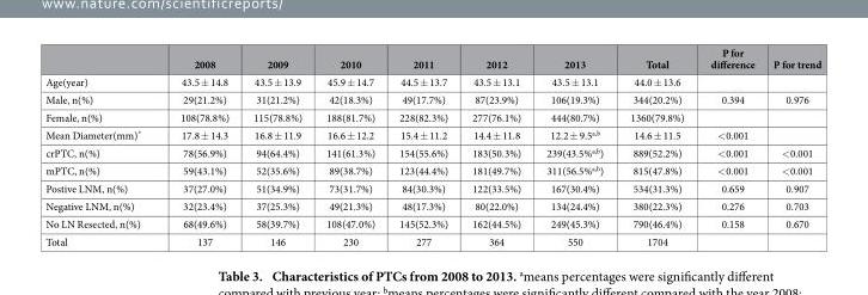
<table><thead><tr><td></td><td>2008</td><td>2009</td><td>2010</td><td>2011</td><td>2012</td><td>2013</td><td>Total</td><td>P for difference</td><td>P for trend</td></tr></thead><tbody><tr><td>Age(year)</td><td>43.5 ± 14.8</td><td>43.5 ± 13.9</td><td>45.9 ± 14.7</td><td>44.5 ± 13.7</td><td>43.5 ± 13.1</td><td>43.5 ± 13.1</td><td>44.0 ± 13.6</td><td></td><td></td></tr><tr><td>Male, n(%)</td><td>29(21.2%)</td><td>31(21.2%)</td><td>42(18.3%)</td><td>49(17.7%)</td><td>87(23.9%)</td><td>106(19.3%)</td><td>344(20.2%)</td><td>0.394</td><td>0.976</td></tr><tr><td>Female, n(%)</td><td>108(78.8%)</td><td>115(78.8%)</td><td>188(81.7%)</td><td>228(82.3%)</td><td>277(76.1%)</td><td>444(80.7%)</td><td>1360(79.8%)</td><td></td><td></td></tr><tr><td>Mean Diameter(mm)*</td><td>17.8 ± 14.3</td><td>16.8 ± 11.9</td><td>16.6 ± 12.2</td><td>15.4 ± 11.2</td><td>14.4 ± 11.8</td><td>12.2 ± 9.5<sup>a,b</sup></td><td>14.6 ± 11.5</td><td>&lt; 0.001</td><td></td></tr><tr><td>crPTC, n(%)</td><td>78(56.9%)</td><td>94(64.4%)</td><td>141(61.3%)</td><td>154(55.6%)</td><td>183(50.3%)</td><td>239(43.5%<sup>a,b</sup>)</td><td>889(52.2%)</td><td>&lt; 0.001</td><td>&lt; 0.001</td></tr><tr><td>mPTC, n(%)</td><td>59(43.1%)</td><td>52(35.6%)</td><td>89(38.7%)</td><td>123(44.4%)</td><td>181(49.7%)</td><td>311(56.5%<sup>a,b</sup>)</td><td>815(47.8%)</td><td>&lt; 0.001</td><td>&lt; 0.001</td></tr><tr><td>Postive LNM, n(%)</td><td>37(27.0%)</td><td>51(34.9%)</td><td>73(31.7%)</td><td>84(30.3%)</td><td>122(33.5%)</td><td>167(30.4%)</td><td>534(31.3%)</td><td>0.659</td><td>0.907</td></tr><tr><td>Negative LNM, n(%)</td><td>32(23.4%)</td><td>37(25.3%)</td><td>49(21.3%)</td><td>48(17.3%)</td><td>80(22.0%)</td><td>134(24.4%)</td><td>380(22.3%)</td><td>0.276</td><td>0.703</td></tr><tr><td>No LN Resected, n(%)</td><td>68(49.6%)</td><td>58(39.7%)</td><td>108(47.0%)</td><td>145(52.3%)</td><td>162(44.5%)</td><td>249(45.3%)</td><td>790(46.4%)</td><td>0.158</td><td>0.670</td></tr><tr><td>Total</td><td>137</td><td>146</td><td>230</td><td>277</td><td>364</td><td>550</td><td>1704</td><td></td><td></td></tr></tbody></table>